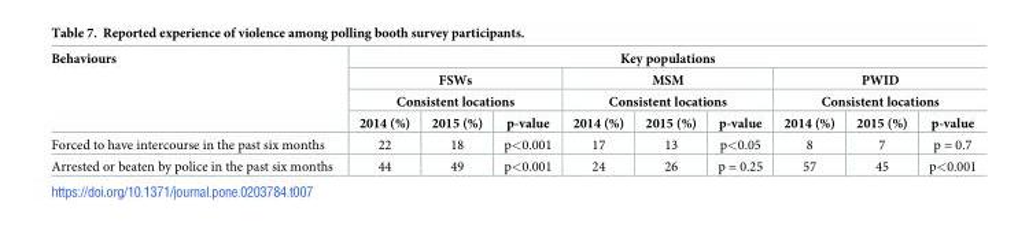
<table><thead><tr><td rowspan="4">Behaviours</td><td colspan="9">Key populations</td></tr><tr><td rowspan="2" colspan="3">FSWs Consistent locations</td><td rowspan="2" colspan="3">MSM Consistent locations</td><td rowspan="2" colspan="3">PWID Consistent locations</td></tr><tr></tr><tr><td>2014 (%)</td><td>2015 (%)</td><td>p-value</td><td>2014 (%)</td><td>2015 (%)</td><td>p-value</td><td>2014 (%)</td><td>2015 (%)</td><td>p-value</td></tr></thead><tbody><tr><td>Forced to have intercourse in the past six months</td><td>22</td><td>18</td><td>p&lt;0.001</td><td>17</td><td>13</td><td>p&lt;0.05</td><td>8</td><td>7</td><td>p = 0.7</td></tr><tr><td>Arrested or beaten by police in the past six months</td><td>44</td><td>49</td><td>p&lt;0.001</td><td>24</td><td>26</td><td>p = 0.25</td><td>57</td><td>45</td><td>p&lt;0.001</td></tr></tbody></table>